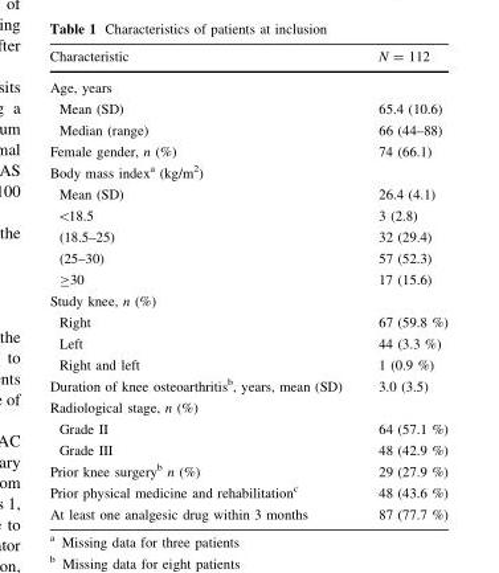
<table><thead><tr><td>Characteristic</td><td>N = 112</td></tr></thead><tbody><tr><td colspan="2">Age, years</td></tr><tr><td>Mean (SD)</td><td>65.4 (10.6)</td></tr><tr><td>Median (range)</td><td>66 (44–88)</td></tr><tr><td>Female gender, n (%)</td><td>74 (66.1)</td></tr><tr><td colspan="2">Body mass index<sup>a</sup> (kg/m<sup>2</sup>)</td></tr><tr><td>Mean (SD)</td><td>26.4 (4.1)</td></tr><tr><td>&lt;18.5</td><td>3 (2.8)</td></tr><tr><td>(18.5–25)</td><td>32 (29.4)</td></tr><tr><td>(25–30)</td><td>57 (52.3)</td></tr><tr><td>≥30</td><td>17 (15.6)</td></tr><tr><td colspan="2">Study knee, n (%)</td></tr><tr><td>Right</td><td>67 (59.8 %)</td></tr><tr><td>Left</td><td>44 (3.3 %)</td></tr><tr><td>Right and left</td><td>1 (0.9 %)</td></tr><tr><td>Duration of knee osteoarthritis<sup>b</sup>, years, mean (SD)</td><td>3.0 (3.5)</td></tr><tr><td colspan="2">Radiological stage, n (%)</td></tr><tr><td>Grade II</td><td>64 (57.1 %)</td></tr><tr><td>Grade III</td><td>48 (42.9 %)</td></tr><tr><td>Prior knee surgery<sup>b</sup> n (%)</td><td>29 (27.9 %)</td></tr><tr><td>Prior physical medicine and rehabilitation<sup>c</sup></td><td>48 (43.6 %)</td></tr><tr><td>At least one analgesic drug within 3 months</td><td>87 (77.7 %)</td></tr></tbody></table>